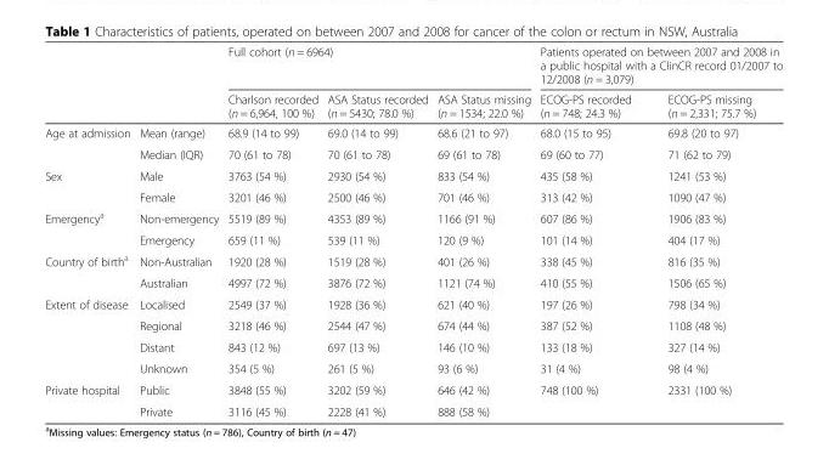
<table><thead><tr><td rowspan="2"></td><td rowspan="2"></td><td colspan="3">Full cohort (n = 6964)</td><td colspan="2">Patients operated on between 2007 and 2008 in a public hospital with a ClinCR record 01/2007 to 12/2008 (n = 3,079)</td></tr><tr><td>Charlson recorded (n = 6,964, 100 %)</td><td>ASA Status recorded (n = 5430; 78.0 %)</td><td>ASA Status missing (n = 1534; 22.0 %)</td><td>ECOG-PS recorded (n = 748; 24.3 %)</td><td>ECOG-PS missing (n = 2,331; 75.7 %)</td></tr></thead><tbody><tr><td rowspan="2">Age at admission</td><td>Mean (range)</td><td>68.9 (14 to 99)</td><td>69.0 (14 to 99)</td><td>68.6 (21 to 97)</td><td>68.0 (15 to 95)</td><td>69.8 (20 to 97)</td></tr><tr><td>Median (IQR)</td><td>70 (61 to 78)</td><td>70 (61 to 78)</td><td>69 (61 to 78)</td><td>69 (60 to 77)</td><td>71 (62 to 79)</td></tr><tr><td rowspan="2">Sex</td><td>Male</td><td>3763 (54 %)</td><td>2930 (54 %)</td><td>833 (54 %)</td><td>435 (58 %)</td><td>1241 (53 %)</td></tr><tr><td>Female</td><td>3201 (46 %)</td><td>2500 (46 %)</td><td>701 (46 %)</td><td>313 (42 %)</td><td>1090 (47 %)</td></tr><tr><td rowspan="2">Emergency<sup>a</sup></td><td>Non-emergency</td><td>5519 (89 %)</td><td>4353 (89 %)</td><td>1166 (91 %)</td><td>607 (86 %)</td><td>1906 (83 %)</td></tr><tr><td>Emergency</td><td>659 (11 %)</td><td>539 (11 %)</td><td>120 (9 %)</td><td>101 (14 %)</td><td>404 (17 %)</td></tr><tr><td rowspan="2">Country of birth<sup>a</sup></td><td>Non-Australian</td><td>1920 (28 %)</td><td>1519 (28 %)</td><td>401 (26 %)</td><td>338 (45 %)</td><td>816 (35 %)</td></tr><tr><td>Australian</td><td>4997 (72 %)</td><td>3876 (72 %)</td><td>1121 (74 %)</td><td>410 (55 %)</td><td>1506 (65 %)</td></tr><tr><td rowspan="4">Extent of disease</td><td>Localised</td><td>2549 (37 %)</td><td>1928 (36 %)</td><td>621 (40 %)</td><td>197 (26 %)</td><td>798 (34 %)</td></tr><tr><td>Regional</td><td>3218 (46 %)</td><td>2544 (47 %)</td><td>674 (44 %)</td><td>387 (52 %)</td><td>1108 (48 %)</td></tr><tr><td>Distant</td><td>843 (12 %)</td><td>697 (13 %)</td><td>146 (10 %)</td><td>133 (18 %)</td><td>327 (14 %)</td></tr><tr><td>Unknown</td><td>354 (5 %)</td><td>261 (5 %)</td><td>93 (6 %)</td><td>31 (4 %)</td><td>98 (4 %)</td></tr><tr><td rowspan="2">Private hospital</td><td>Public</td><td>3848 (55 %)</td><td>3202 (59 %)</td><td>646 (42 %)</td><td>748 (100 %)</td><td>2331 (100 %)</td></tr><tr><td>Private</td><td>3116 (45 %)</td><td>2228 (41 %)</td><td>888 (58 %)</td><td></td><td></td></tr></tbody></table>